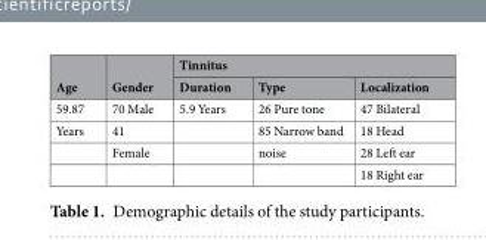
<table><thead><tr><td rowspan="2">Age</td><td rowspan="2">Gender</td><td colspan="3">Tinnitus</td></tr><tr><td>Duration</td><td>Type</td><td>Localization</td></tr></thead><tbody><tr><td>59.87</td><td>70 Male</td><td>5.9 Years</td><td>26 Pure tone</td><td>47 Bilateral</td></tr><tr><td rowspan="3">Years</td><td>41</td><td></td><td>85 Narrow band</td><td>18 Head</td></tr><tr><td>Female</td><td></td><td>noise</td><td>28 Left ear</td></tr><tr><td></td><td></td><td></td><td>18 Right ear</td></tr></tbody></table>